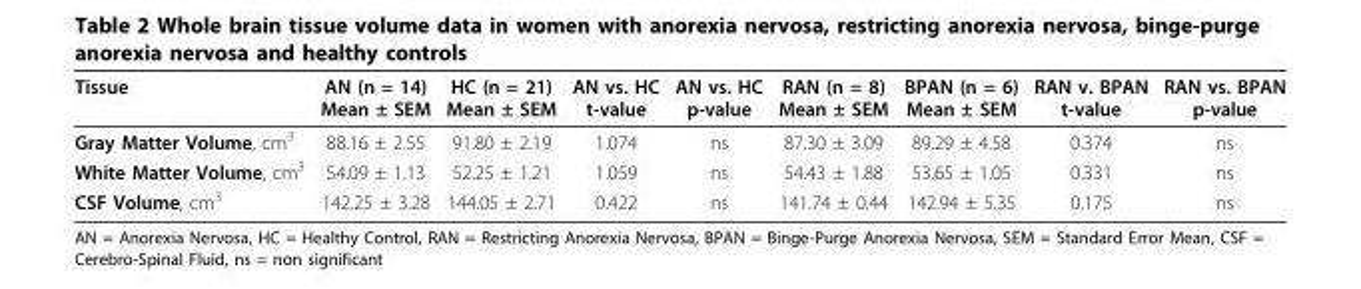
<table><thead><tr><td>Tissue</td><td>AN (n = 14) Mean ± SEM</td><td>HC (n = 21) Mean ± SEM</td><td>AN vs. HC t-value</td><td>AN vs. HC p-value</td><td>RAN (n = 8) Mean ± SEM</td><td>BPAN (n = 6) Mean ± SEM</td><td>RAN v. BPAN t-value</td><td>RAN vs. BPAN p-value</td></tr></thead><tbody><tr><td>Gray Matter Volume, cm<sup>3</sup></td><td>88.16 ± 2.55</td><td>91.80 ± 2.19</td><td>1.074</td><td>ns</td><td>87.30 ± 3.09</td><td>89.29 ± 4.58</td><td>0.374</td><td>ns</td></tr><tr><td>White Matter Volume, cm<sup>3</sup></td><td>54.09 ± 1.13</td><td>52.25 ± 1.21</td><td>1.059</td><td>ns</td><td>54.43 ± 1.88</td><td>53.65 ± 1.05</td><td>0.331</td><td>ns</td></tr><tr><td>CSF Volume, cm<sup>3</sup></td><td>142.25 ± 3.28</td><td>144.05 ± 2.71</td><td>0.422</td><td>ns</td><td>141.74 ± 0.44</td><td>142.94 ± 5.35</td><td>0.175</td><td>ns</td></tr></tbody></table>